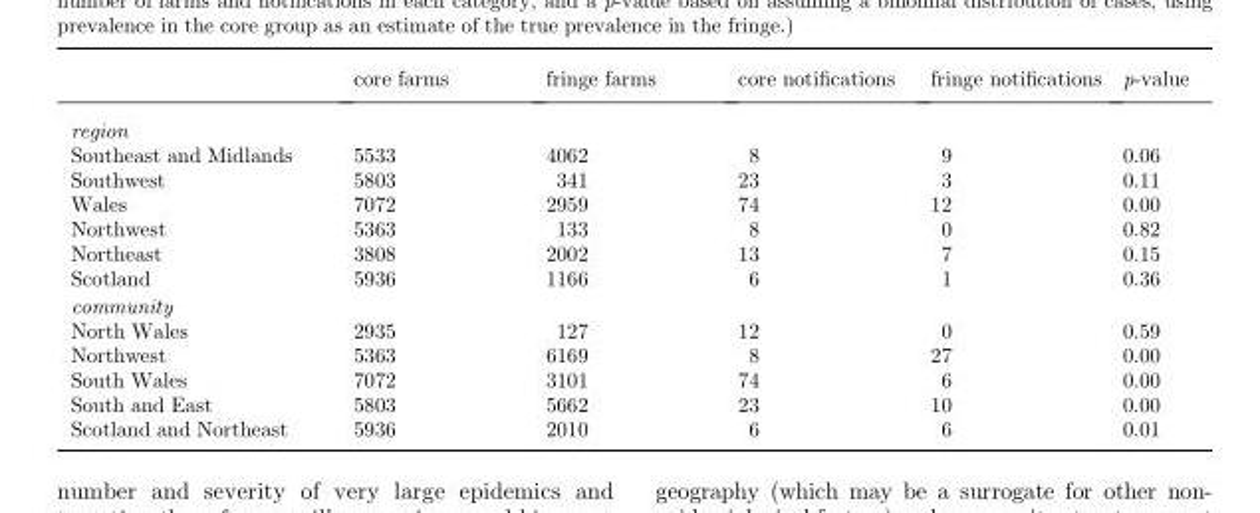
<table><thead><tr><td></td><td>core farms</td><td>fringe farms</td><td>core notifications</td><td>fringe notifications</td><td>p-value</td></tr></thead><tbody><tr><td colspan="6">region</td></tr><tr><td>Southeast and Midlands</td><td>5533</td><td>4062</td><td>8</td><td>9</td><td>0.06</td></tr><tr><td>Southwest</td><td>5803</td><td>341</td><td>23</td><td>3</td><td>0.11</td></tr><tr><td>Wales</td><td>7072</td><td>2959</td><td>74</td><td>12</td><td>0.00</td></tr><tr><td>Northwest</td><td>5363</td><td>133</td><td>8</td><td>0</td><td>0.82</td></tr><tr><td>Northeast</td><td>3808</td><td>2002</td><td>13</td><td>7</td><td>0.15</td></tr><tr><td>Scotland</td><td>5936</td><td>1166</td><td>6</td><td>1</td><td>0.36</td></tr><tr><td colspan="6">community</td></tr><tr><td>North Wales</td><td>2935</td><td>127</td><td>12</td><td>0</td><td>0.59</td></tr><tr><td>Northwest</td><td>5363</td><td>6169</td><td>8</td><td>27</td><td>0.00</td></tr><tr><td>South Wales</td><td>7072</td><td>3101</td><td>74</td><td>6</td><td>0.00</td></tr><tr><td>South and East</td><td>5803</td><td>5662</td><td>23</td><td>10</td><td>0.00</td></tr><tr><td>Scotland and Northeast</td><td>5936</td><td>2010</td><td>6</td><td>6</td><td>0.01</td></tr></tbody></table>